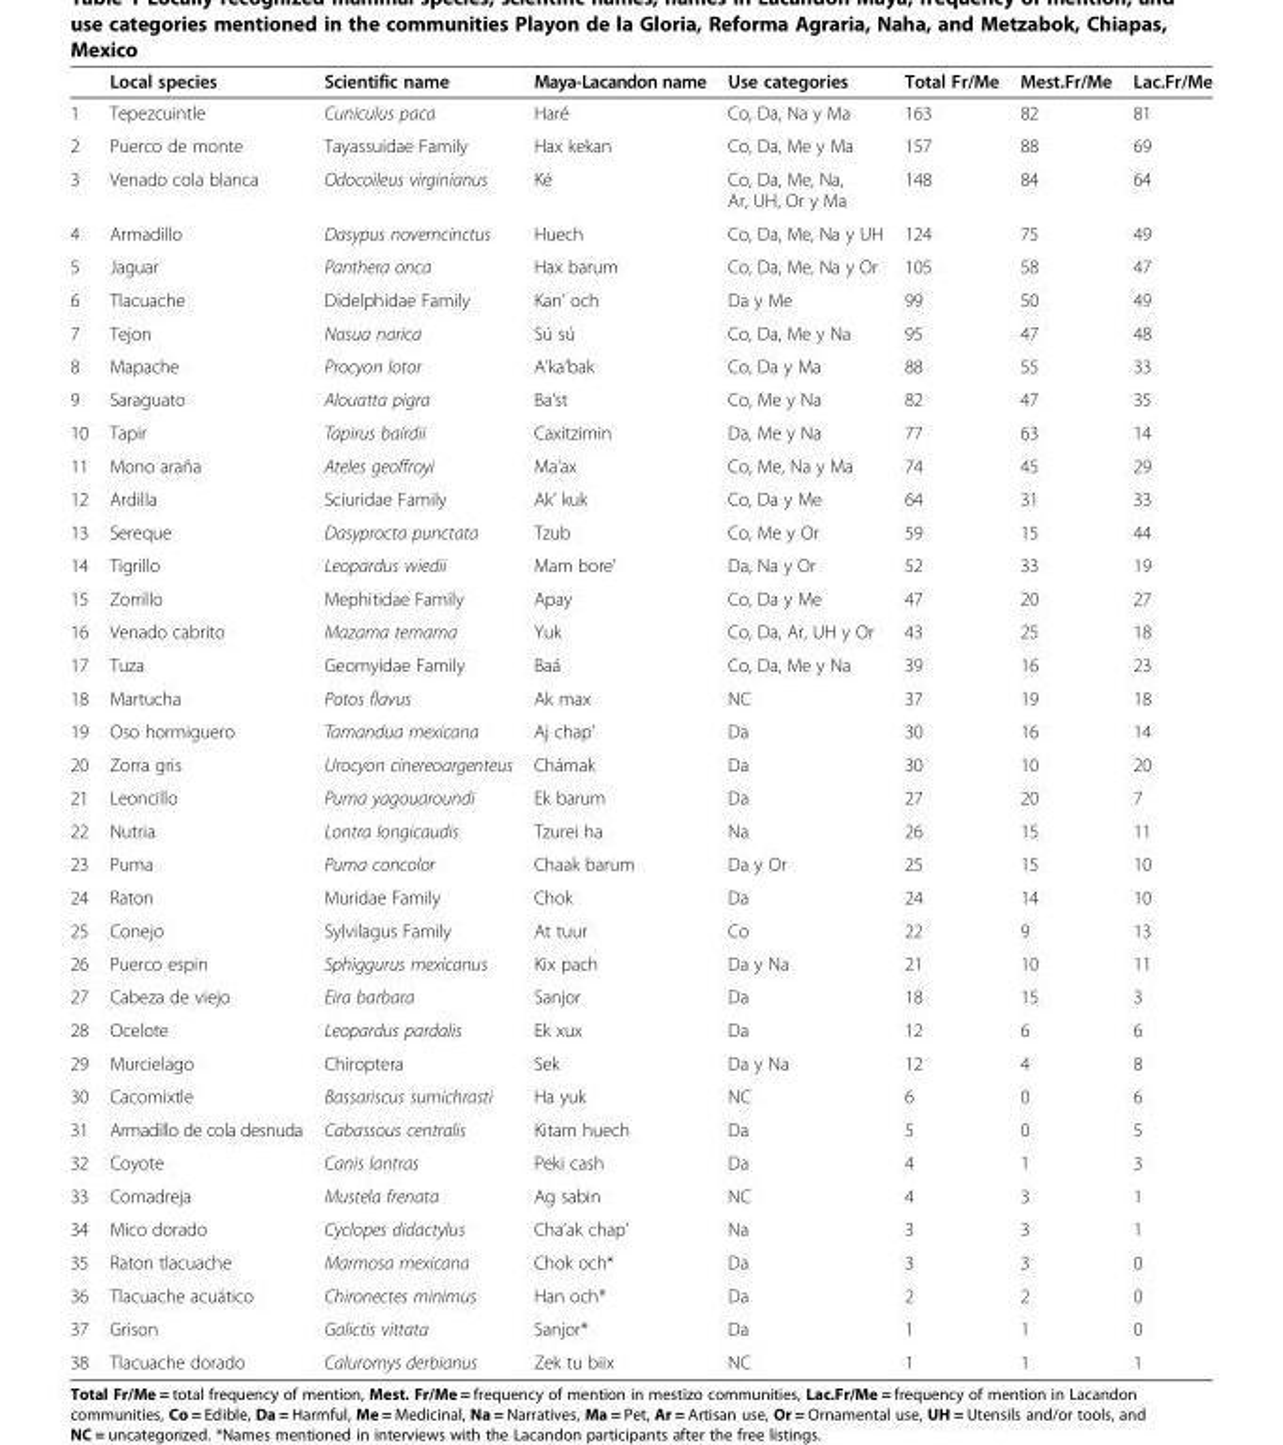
<table><thead><tr><td></td><td>Local species</td><td>Scientific name</td><td>Maya-Lacandon name</td><td>Use categories</td><td>Total Fr/Me</td><td>Mest.Fr/Me</td><td>Lac.Fr/Me</td></tr></thead><tbody><tr><td>1</td><td>Tepezcuintle</td><td>Cuniculus paca</td><td>Haré</td><td>Co, Da, Na y Ma</td><td>163</td><td>82</td><td>81</td></tr><tr><td>2</td><td>Puerco de monte</td><td>Tayassuidae Family</td><td>Hax kekan</td><td>Co, Da, Me y Ma</td><td>157</td><td>88</td><td>69</td></tr><tr><td>3</td><td>Venado cola blanca</td><td>Odocoileus virginianus</td><td>Ké</td><td>Co, Da, Me, Na, Ar, UH, Or y Ma</td><td>148</td><td>84</td><td>64</td></tr><tr><td>4</td><td>Armadillo</td><td>Dasypus novemcinctus</td><td>Huech</td><td>Co, Da, Me, Na y UH</td><td>124</td><td>75</td><td>49</td></tr><tr><td>5</td><td>Jaguar</td><td>Panthera onca</td><td>Hax barum</td><td>Co, Da, Me, Na y Or</td><td>105</td><td>58</td><td>47</td></tr><tr><td>6</td><td>Tlacuache</td><td>Didelphidae Family</td><td>Kan’ och</td><td>Da y Me</td><td>99</td><td>50</td><td>49</td></tr><tr><td>7</td><td>Tejon</td><td>Nasua narica</td><td>Sú sú</td><td>Co, Da, Me y Na</td><td>95</td><td>47</td><td>48</td></tr><tr><td>8</td><td>Mapache</td><td>Procyon lotor</td><td>A’ka’bak</td><td>Co, Da y Ma</td><td>88</td><td>55</td><td>33</td></tr><tr><td>9</td><td>Saraguato</td><td>Alouatta pigra</td><td>Ba’st</td><td>Co, Me y Na</td><td>82</td><td>47</td><td>35</td></tr><tr><td>10</td><td>Tapir</td><td>Tapirus bairdii</td><td>Caxitzimin</td><td>Da, Me y Na</td><td>77</td><td>63</td><td>14</td></tr><tr><td>11</td><td>Mono araña</td><td>Ateles geoffroyi</td><td>Ma’ax</td><td>Co, Me, Na y Ma</td><td>74</td><td>45</td><td>29</td></tr><tr><td>12</td><td>Ardilla</td><td>Sciuridae Family</td><td>Ak’ kuk</td><td>Co, Da y Me</td><td>64</td><td>31</td><td>33</td></tr><tr><td>13</td><td>Sereque</td><td>Dasyprocta punctata</td><td>Tzub</td><td>Co, Me y Or</td><td>59</td><td>15</td><td>44</td></tr><tr><td>14</td><td>Tigrillo</td><td>Leopardus wiedii</td><td>Mam bore’</td><td>Da, Na y Or</td><td>52</td><td>33</td><td>19</td></tr><tr><td>15</td><td>Zorrillo</td><td>Mephitidae Family</td><td>Apay</td><td>Co, Da y Me</td><td>47</td><td>20</td><td>27</td></tr><tr><td>16</td><td>Venado cabrito</td><td>Mazama temama</td><td>Yuk</td><td>Co, Da, Ar, UH y Or</td><td>43</td><td>25</td><td>18</td></tr><tr><td>17</td><td>Tuza</td><td>Geomyidae Family</td><td>Baá</td><td>Co, Da, Me y Na</td><td>39</td><td>16</td><td>23</td></tr><tr><td>18</td><td>Martucha</td><td>Potos flavus</td><td>Ak max</td><td>NC</td><td>37</td><td>19</td><td>18</td></tr><tr><td>19</td><td>Oso hormiguero</td><td>Tamandua mexicana</td><td>Aj chap’</td><td>Da</td><td>30</td><td>16</td><td>14</td></tr><tr><td>20</td><td>Zorra gris</td><td>Urocyon cinereoargenteus</td><td>Chámak</td><td>Da</td><td>30</td><td>10</td><td>20</td></tr><tr><td>21</td><td>Leoncillo</td><td>Puma yagouaroundi</td><td>Ek barum</td><td>Da</td><td>27</td><td>20</td><td>7</td></tr><tr><td>22</td><td>Nutria</td><td>Lontra longicaudis</td><td>Tzurei ha</td><td>Na</td><td>26</td><td>15</td><td>11</td></tr><tr><td>23</td><td>Puma</td><td>Puma concolor</td><td>Chaak barum</td><td>Da y Or</td><td>25</td><td>15</td><td>10</td></tr><tr><td>24</td><td>Raton</td><td>Muridae Family</td><td>Chok</td><td>Da</td><td>24</td><td>14</td><td>10</td></tr><tr><td>25</td><td>Conejo</td><td>Sylvilagus Family</td><td>At tuur</td><td>Co</td><td>22</td><td>9</td><td>13</td></tr><tr><td>26</td><td>Puerco espin</td><td>Sphiggurus mexicanus</td><td>Kix pach</td><td>Da y Na</td><td>21</td><td>10</td><td>11</td></tr><tr><td>27</td><td>Cabeza de viejo</td><td>Eira barbara</td><td>Sanjor</td><td>Da</td><td>18</td><td>15</td><td>3</td></tr><tr><td>28</td><td>Ocelote</td><td>Leopardus pardalis</td><td>Ek xux</td><td>Da</td><td>12</td><td>6</td><td>6</td></tr><tr><td>29</td><td>Murcielago</td><td>Chiroptera</td><td>Sek</td><td>Da y Na</td><td>12</td><td>4</td><td>8</td></tr><tr><td>30</td><td>Cacomixtle</td><td>Bassariscus sumichrasti</td><td>Ha yuk</td><td>NC</td><td>6</td><td>0</td><td>6</td></tr><tr><td>31</td><td>Armadillo de cola desnuda</td><td>Cabassous centralis</td><td>Kitam huech</td><td>Da</td><td>5</td><td>0</td><td>5</td></tr><tr><td>32</td><td>Coyote</td><td>Canis lantras</td><td>Peki cash</td><td>Da</td><td>4</td><td>1</td><td>3</td></tr><tr><td>33</td><td>Comadreja</td><td>Mustela frenata</td><td>Ag sabin</td><td>NC</td><td>4</td><td>3</td><td>1</td></tr><tr><td>34</td><td>Mico dorado</td><td>Cyclopes didactylus</td><td>Cha’ak chap’</td><td>Na</td><td>3</td><td>3</td><td>1</td></tr><tr><td>35</td><td>Raton tlacuache</td><td>Marmosa mexicana</td><td>Chok och*</td><td>Da</td><td>3</td><td>3</td><td>0</td></tr><tr><td>36</td><td>Tlacuache acuático</td><td>Chironectes minimus</td><td>Han och*</td><td>Da</td><td>2</td><td>2</td><td>0</td></tr><tr><td>37</td><td>Grison</td><td>Galictis vittata</td><td>Sanjor*</td><td>Da</td><td>1</td><td>1</td><td>0</td></tr><tr><td>38</td><td>Tlacuache dorado</td><td>Caluromys derbianus</td><td>Zek tu biix</td><td>NC</td><td>1</td><td>1</td><td>1</td></tr></tbody></table>